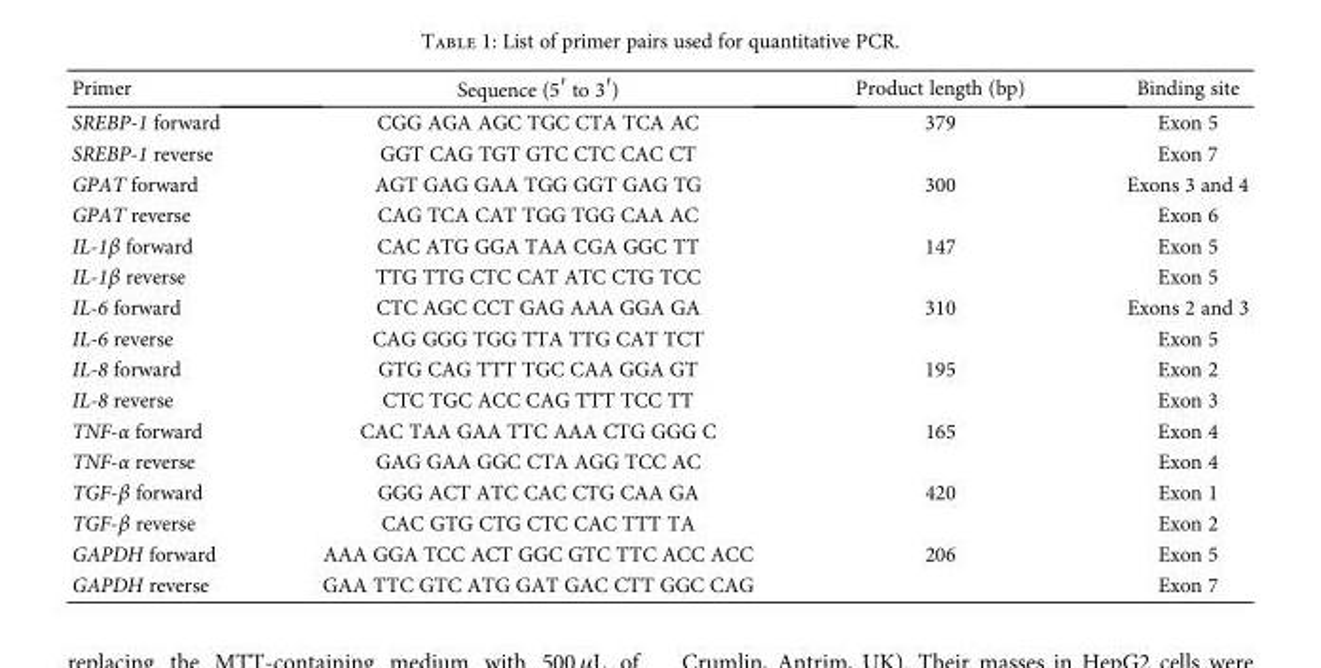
<table><thead><tr><td>Primer</td><td>Sequence (5′ to 3′)</td><td>Product length (bp)</td><td>Binding site</td></tr></thead><tbody><tr><td>SREBP-1 forward</td><td>CGG AGA AGC TGC CTA TCA AC</td><td>379</td><td>Exon 5</td></tr><tr><td>SREBP-1 reverse</td><td>GGT CAG TGT GTC CTC CAC CT</td><td></td><td>Exon 7</td></tr><tr><td>GPAT forward</td><td>AGT GAG GAA TGG GGT GAG TG</td><td>300</td><td>Exons 3 and 4</td></tr><tr><td>GPAT reverse</td><td>CAG TCA CAT TGG TGG CAA AC</td><td></td><td>Exon 6</td></tr><tr><td>IL-1β forward</td><td>CAC ATG GGA TAA CGA GGC TT</td><td>147</td><td>Exon 5</td></tr><tr><td>IL-1β reverse</td><td>TTG TTG CTC CAT ATC CTG TCC</td><td></td><td>Exon 5</td></tr><tr><td>IL-6 forward</td><td>CTC AGC CCT GAG AAA GGA GA</td><td>310</td><td>Exons 2 and 3</td></tr><tr><td>IL-6 reverse</td><td>CAG GGG TGG TTA TTG CAT TCT</td><td></td><td>Exon 5</td></tr><tr><td>IL-8 forward</td><td>GTG CAG TTT TGC CAA GGA GT</td><td>195</td><td>Exon 2</td></tr><tr><td>IL-8 reverse</td><td>CTC TGC ACC CAG TTT TCC TT</td><td></td><td>Exon 3</td></tr><tr><td>TNF-α forward</td><td>CAC TAA GAA TTC AAA CTG GGG C</td><td>165</td><td>Exon 4</td></tr><tr><td>TNF-α reverse</td><td>GAG GAA GGC CTA AGG TCC AC</td><td></td><td>Exon 4</td></tr><tr><td>TGF-β forward</td><td>GGG ACT ATC CAC CTG CAA GA</td><td>420</td><td>Exon 1</td></tr><tr><td>TGF-β reverse</td><td>CAC GTG CTG CTC CAC TTT TA</td><td></td><td>Exon 2</td></tr><tr><td>GAPDH forward</td><td>AAA GGA TCC ACT GGC GTC TTC ACC ACC</td><td>206</td><td>Exon 5</td></tr><tr><td>GAPDH reverse</td><td>GAA TTC GTC ATG GAT GAC CTT GGC CAG</td><td></td><td>Exon 7</td></tr></tbody></table>